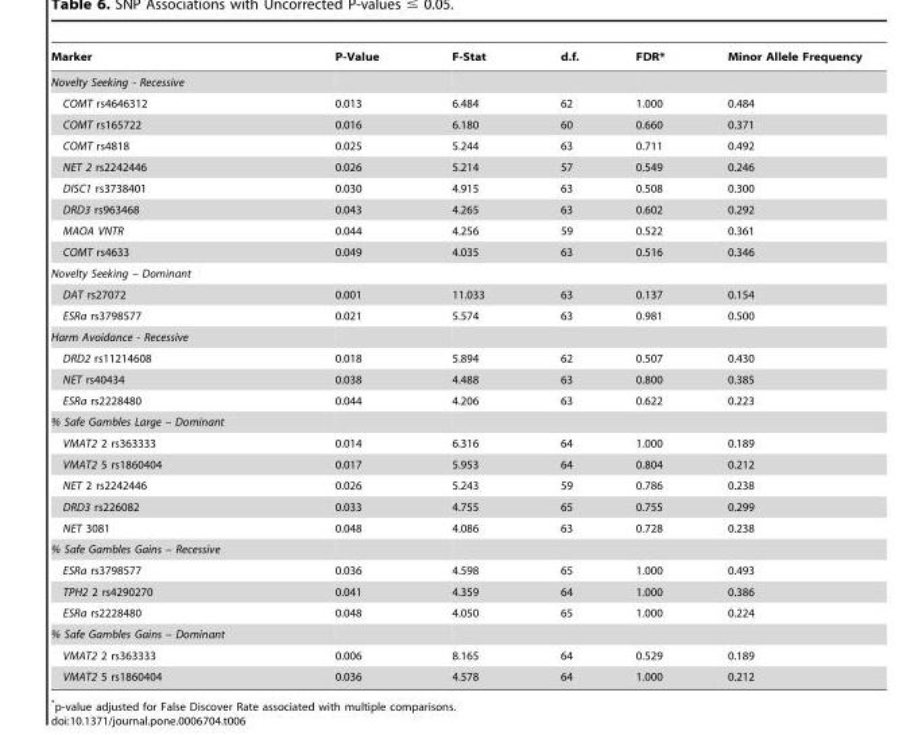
<table><thead><tr><td>Marker</td><td>P-Value</td><td>F-Stat</td><td>d.f.</td><td>FDR*</td><td>Minor Allele Frequency</td></tr></thead><tbody><tr><td colspan="6">Novelty Seeking - Recessive</td></tr><tr><td>COMT rs4646312</td><td>0.013</td><td>6.484</td><td>62</td><td>1.000</td><td>0.484</td></tr><tr><td>COMT rs165722</td><td>0.016</td><td>6.180</td><td>60</td><td>0.660</td><td>0.371</td></tr><tr><td>COMT rs4818</td><td>0.025</td><td>5.244</td><td>63</td><td>0.711</td><td>0.492</td></tr><tr><td>NET 2 rs2242446</td><td>0.026</td><td>5.214</td><td>57</td><td>0.549</td><td>0.246</td></tr><tr><td>DISC1 rs3738401</td><td>0.030</td><td>4.915</td><td>63</td><td>0.508</td><td>0.300</td></tr><tr><td>DRD3 rs963468</td><td>0.043</td><td>4.265</td><td>63</td><td>0.602</td><td>0.292</td></tr><tr><td>MAOA VNTR</td><td>0.044</td><td>4.256</td><td>59</td><td>0.522</td><td>0.361</td></tr><tr><td>COMT rs4633</td><td>0.049</td><td>4.035</td><td>63</td><td>0.516</td><td>0.346</td></tr><tr><td colspan="6">Novelty Seeking – Dominant</td></tr><tr><td>DAT rs27072</td><td>0.001</td><td>11.033</td><td>63</td><td>0.137</td><td>0.154</td></tr><tr><td>ESRa rs3798577</td><td>0.021</td><td>5.574</td><td>63</td><td>0.981</td><td>0.500</td></tr><tr><td colspan="6">Harm Avoidance - Recessive</td></tr><tr><td>DRD2 rs11214608</td><td>0.018</td><td>5.894</td><td>62</td><td>0.507</td><td>0.430</td></tr><tr><td>NET rs40434</td><td>0.038</td><td>4.488</td><td>63</td><td>0.800</td><td>0.385</td></tr><tr><td>ESRa rs2228480</td><td>0.044</td><td>4.206</td><td>63</td><td>0.622</td><td>0.223</td></tr><tr><td colspan="6">% Safe Gambles Large – Dominant</td></tr><tr><td>VMAT2 2 rs363333</td><td>0.014</td><td>6.316</td><td>64</td><td>1.000</td><td>0.189</td></tr><tr><td>VMAT2 5 rs1860404</td><td>0.017</td><td>5.953</td><td>64</td><td>0.804</td><td>0.212</td></tr><tr><td>NET 2 rs2242446</td><td>0.026</td><td>5.243</td><td>59</td><td>0.786</td><td>0.238</td></tr><tr><td>DRD3 rs226082</td><td>0.033</td><td>4.755</td><td>65</td><td>0.755</td><td>0.299</td></tr><tr><td>NET 3081</td><td>0.048</td><td>4.086</td><td>63</td><td>0.728</td><td>0.238</td></tr><tr><td colspan="6">% Safe Gambles Gains – Recessive</td></tr><tr><td>ESRa rs3798577</td><td>0.036</td><td>4.598</td><td>65</td><td>1.000</td><td>0.493</td></tr><tr><td>TPH2 2 rs4290270</td><td>0.041</td><td>4.359</td><td>64</td><td>1.000</td><td>0.386</td></tr><tr><td>ESRa rs2228480</td><td>0.048</td><td>4.050</td><td>65</td><td>1.000</td><td>0.224</td></tr><tr><td colspan="6">% Safe Gambles Gains – Dominant</td></tr><tr><td>VMAT2 2 rs363333</td><td>0.006</td><td>8.165</td><td>64</td><td>0.529</td><td>0.189</td></tr><tr><td>VMAT2 5 rs1860404</td><td>0.036</td><td>4.578</td><td>64</td><td>1.000</td><td>0.212</td></tr></tbody></table>